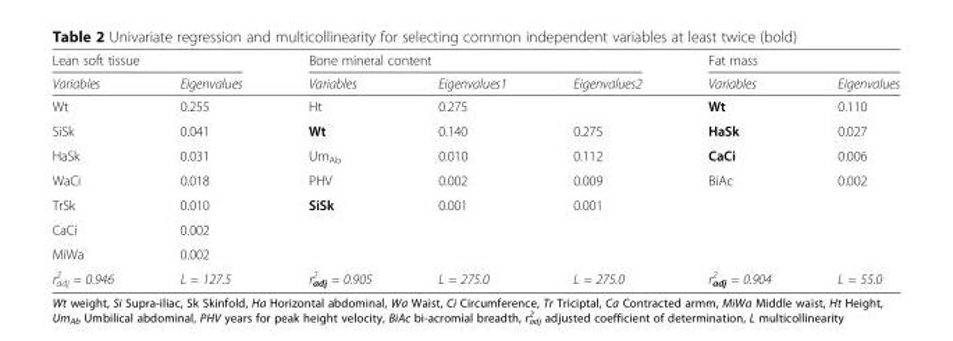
<table><thead><tr><td colspan="2">Lean soft tissue</td><td colspan="3">Bone mineral content</td><td colspan="2">Fat mass</td></tr><tr><td>Variables</td><td>Eigenvalues</td><td>Variables</td><td>Eigenvalues1</td><td>Eigenvalues2</td><td>Variables</td><td>Eigenvalues</td></tr></thead><tbody><tr><td>Wt</td><td>0.255</td><td>Ht</td><td>0.275</td><td></td><td>Wt</td><td>0.110</td></tr><tr><td>SiSk</td><td>0.041</td><td>Wt</td><td>0.140</td><td>0.275</td><td>HaSk</td><td>0.027</td></tr><tr><td>HaSk</td><td>0.031</td><td>Um<sub>Ab</sub></td><td>0.010</td><td>0.112</td><td>CaCi</td><td>0.006</td></tr><tr><td>WaCi</td><td>0.018</td><td>PHV</td><td>0.002</td><td>0.009</td><td>BiAc</td><td>0.002</td></tr><tr><td>TrSk</td><td>0.010</td><td>SiSk</td><td>0.001</td><td>0.001</td><td></td><td></td></tr><tr><td>CaCi</td><td>0.002</td><td></td><td></td><td></td><td></td><td></td></tr><tr><td>MiWa</td><td>0.002</td><td></td><td></td><td></td><td></td><td></td></tr><tr><td>r<sup>2</sup> <sub>adj</sub> = 0.946</td><td>L = 127.5</td><td>r<sup>2</sup> <sub>adj</sub> = 0.905</td><td>L = 275.0</td><td>L = 275.0</td><td>r<sup>2</sup> <sub>adj</sub> = 0.904</td><td>L = 55.0</td></tr></tbody></table>